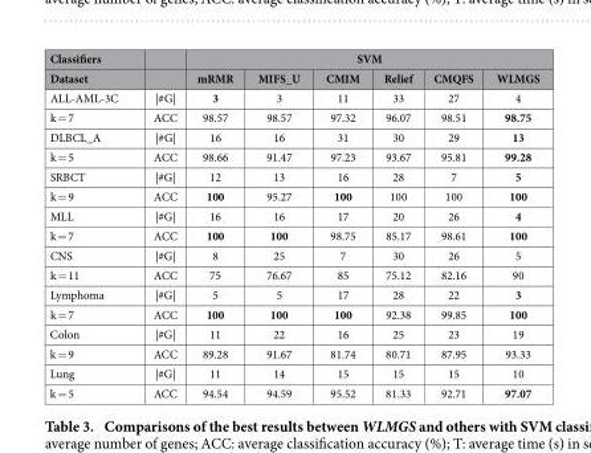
<table><thead><tr><td rowspan="2">Classifiers Dataset</td><td rowspan="2"></td><td colspan="6">SVM</td></tr><tr><td>mRMR</td><td>MIFS_U</td><td>CMIM</td><td>Relief</td><td>CMQFS</td><td>WLMGS</td></tr></thead><tbody><tr><td>ALL-AML-3C</td><td>|#G|</td><td>3</td><td>3</td><td>11</td><td>33</td><td>27</td><td>4</td></tr><tr><td>k = 7</td><td>ACC</td><td>98.57</td><td>98.57</td><td>97.32</td><td>96.07</td><td>98.51</td><td>98.75</td></tr><tr><td>DLBCL_A</td><td>|#G|</td><td>16</td><td>16</td><td>31</td><td>30</td><td>29</td><td>13</td></tr><tr><td>k = 5</td><td>ACC</td><td>98.66</td><td>91.47</td><td>97.23</td><td>93.67</td><td>95.81</td><td>99.28</td></tr><tr><td>SRBCT</td><td>|#G|</td><td>12</td><td>13</td><td>16</td><td>28</td><td>7</td><td>5</td></tr><tr><td>k = 9</td><td>ACC</td><td>100</td><td>95.27</td><td>100</td><td>100</td><td>100</td><td>100</td></tr><tr><td>MLL</td><td>|#G|</td><td>16</td><td>16</td><td>17</td><td>20</td><td>26</td><td>4</td></tr><tr><td>k = 7</td><td>ACC</td><td>100</td><td>100</td><td>98.75</td><td>85.17</td><td>98.61</td><td>100</td></tr><tr><td>CNS</td><td>|#G|</td><td>8</td><td>25</td><td>7</td><td>30</td><td>26</td><td>5</td></tr><tr><td>k = 11</td><td>ACC</td><td>75</td><td>76.67</td><td>85</td><td>75.12</td><td>82.16</td><td>90</td></tr><tr><td>Lymphoma</td><td>|#G|</td><td>5</td><td>5</td><td>17</td><td>28</td><td>22</td><td>3</td></tr><tr><td>k = 7</td><td>ACC</td><td>100</td><td>100</td><td>100</td><td>92.38</td><td>99.85</td><td>100</td></tr><tr><td>Colon</td><td>|#G|</td><td>11</td><td>22</td><td>16</td><td>25</td><td>23</td><td>19</td></tr><tr><td>k = 9</td><td>ACC</td><td>89.28</td><td>91.67</td><td>81.74</td><td>80.71</td><td>87.95</td><td>93.33</td></tr><tr><td>Lung</td><td>|#G|</td><td>11</td><td>14</td><td>15</td><td>15</td><td>15</td><td>10</td></tr><tr><td>k = 5</td><td>ACC</td><td>94.54</td><td>94.59</td><td>95.52</td><td>81.33</td><td>92.71</td><td>97.07</td></tr></tbody></table>